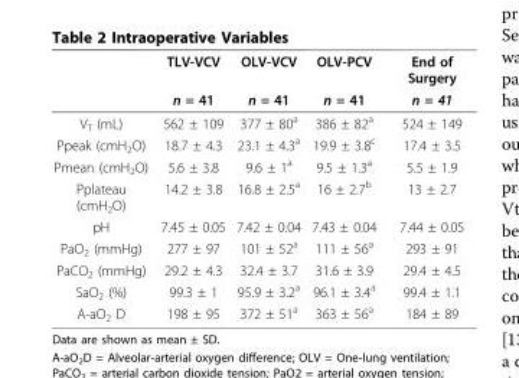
<table><thead><tr><td rowspan="2"></td><td rowspan="2">TLV-VCV n = 41</td><td rowspan="2">OLV-VCV n = 41</td><td rowspan="2">OLV-PCV n = 41</td><td rowspan="2">End of Surgery n = 41</td></tr><tr></tr></thead><tbody><tr><td>V<sub>T</sub> (mL)</td><td>562 ± 109</td><td>377 ± 80<sup>a</sup></td><td>386 ± 82<sup>a</sup></td><td>524 ± 149</td></tr><tr><td>Ppeak (cmH<sub>2</sub>O)</td><td>18.7 ± 4.3</td><td>23.1 ± 4.3<sup>a</sup></td><td>19.9 ± 3.8<sup>c</sup></td><td>17.4 ± 3.5</td></tr><tr><td>Pmean (cmH<sub>2</sub>O)</td><td>5.6 ± 3.8</td><td>9.6 ± 1<sup>a</sup></td><td>9.5 ± 1.3<sup>a</sup></td><td>5.5 ± 1.9</td></tr><tr><td>Pplateau (cmH<sub>2</sub>O)</td><td>14.2 ± 3.8</td><td>16.8 ± 2.5<sup>a</sup></td><td>16 ± 2.7<sup>b</sup></td><td>13 ± 2.7</td></tr><tr><td>pH</td><td>7.45 ± 0.05</td><td>7.42 ± 0.04</td><td>7.43 ± 0.04</td><td>7.44 ± 0.05</td></tr><tr><td>PaO<sub>2</sub> (mmHg)</td><td>277 ± 97</td><td>101 ± 52<sup>a</sup></td><td>111 ± 56<sup>a</sup></td><td>293 ± 91</td></tr><tr><td>PaCO<sub>2</sub> (mmHg)</td><td>29.2 ± 4.3</td><td>32.4 ± 3.7</td><td>31.6 ± 3.9</td><td>29.4 ± 4.5</td></tr><tr><td>SaO<sub>2</sub> (%)</td><td>99.3 ± 1</td><td>95.9 ± 3.2<sup>a</sup></td><td>96.1 ± 3.4<sup>a</sup></td><td>99.4 ± 1.1</td></tr><tr><td>A-aO<sub>2</sub> D</td><td>198 ± 95</td><td>372 ± 51<sup>a</sup></td><td>363 ± 56<sup>a</sup></td><td>184 ± 89</td></tr></tbody></table>